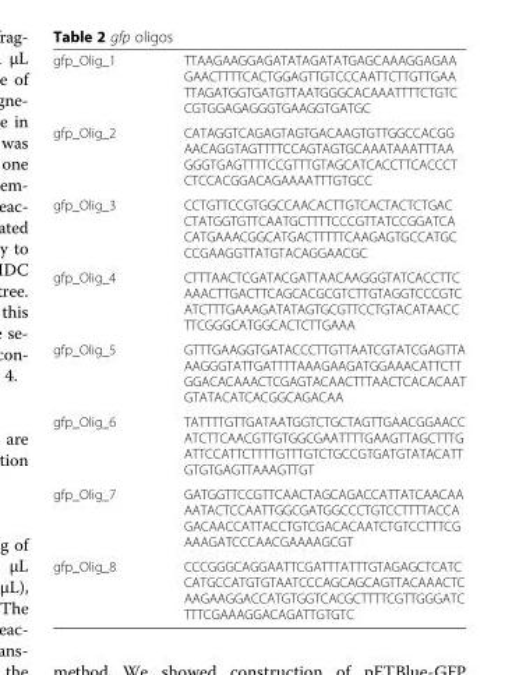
<table><tbody><tr><td>gfp_Olig_1</td><td>TTAAGAAGGAGATATAGATATGAGCAAAGGAGAA GAACTTTTCACTGGAGTTGTCCCAATTCTTGTTGAA TTAGATGGTGATGTTAATGGGCACAAATTTTCTGTC CGTGGAGAGGGTGAAGGTGATGC</td></tr><tr><td>gfp_Olig_2</td><td>CATAGGTCAGAGTAGTGACAAGTGTTGGCCACGG AACAGGTAGTTTTCCAGTAGTGCAAATAAATTTAA GGGTGAGTTTTCCGTTTGTAGCATCACCTTCACCCT CTCCACGGACAGAAAATTTGTGCC</td></tr><tr><td>gfp_Olig_3</td><td>CCTGTTCCGTGGCCAACACTTGTCACTACTCTGAC CTATGGTGTTCAATGCTTTTCCCGTTATCCGGATCA CATGAAACGGCATGACTTTTTCAAGAGTGCCATGC CCGAAGGTTATGTACAGGAACGC</td></tr><tr><td>gfp_Olig_4</td><td>CTTTAACTCGATACGATTAACAAGGGTATCACCTTC AAACTTGACTTCAGCACGCGTCTTGTAGGTCCCGTC ATCTTTGAAAGATATAGTGCGTTCCTGTACATAACC TTCGGGCATGGCACTCTTGAAA</td></tr><tr><td>gfp_Olig_5</td><td>GTTTGAAGGTGATACCCTTGTTAATCGTATCGAGTTA AAGGGTATTGATTTTAAAGAAGATGGAAACATTCTT GGACACAAACTCGAGTACAACTTTAACTCACACAAT GTATACATCACGGCAGACAA</td></tr><tr><td>gfp_Olig_6</td><td>TATTTTGTTGATAATGGTCTGCTAGTTGAACGGAACC ATCTTCAACGTTGTGGCGAATTTTGAAGTTAGCTTTG ATTCCATTCTTTTGTTTGTCTGCCGTGATGTATACATT GTGTGAGTTAAAGTTGT</td></tr><tr><td>gfp_Olig_7</td><td>GATGGTTCCGTTCAACTAGCAGACCATTATCAACAA AATACTCCAATTGGCGATGGCCCTGTCCTTTTACCA GACAACCATTACCTGTCGACACAATCTGTCCTTTCG AAAGATCCCAACGAAAAGCGT</td></tr><tr><td>gfp_Olig_8</td><td>CCCGGGCAGGAATTCGATTTATTTGTAGAGCTCATC CATGCCATGTGTAATCCCAGCAGCAGTTACAAACTC AAGAAGGACCATGTGGTCACGCTTTTCGTTGGGATC TTTCGAAAGGACAGATTGTGTC</td></tr></tbody></table>